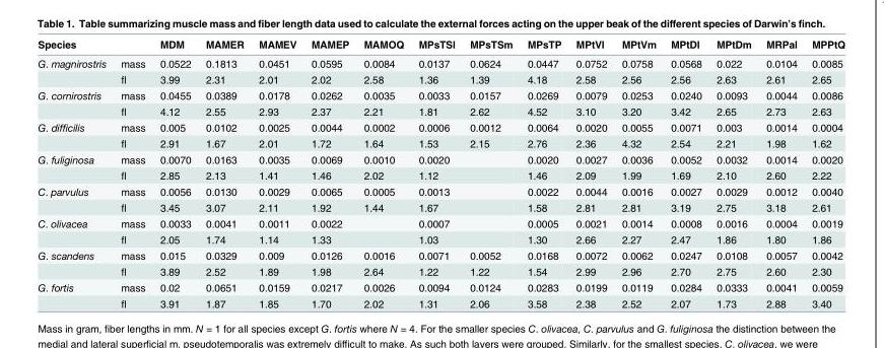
<table><thead><tr><td>Species</td><td></td><td>MDM</td><td>MAMER</td><td>MAMEV</td><td>MAMEP</td><td>MAMOQ</td><td>MPsTSl</td><td>MPsTSm</td><td>MPsTP</td><td>MPtVl</td><td>MPtVm</td><td>MPtDl</td><td>MPtDm</td><td>MRPal</td><td>MPPtQ</td></tr></thead><tbody><tr><td rowspan="2">G. magnirostris</td><td>mass</td><td>0.0522</td><td>0.1813</td><td>0.0451</td><td>0.0595</td><td>0.0084</td><td>0.0137</td><td>0.0624</td><td>0.0447</td><td>0.0752</td><td>0.0758</td><td>0.0568</td><td>0.022</td><td>0.0104</td><td>0.0085</td></tr><tr><td>fl</td><td>3.99</td><td>2.31</td><td>2.01</td><td>2.02</td><td>2.58</td><td>1.36</td><td>1.39</td><td>4.18</td><td>2.58</td><td>2.56</td><td>2.56</td><td>2.63</td><td>2.61</td><td>2.65</td></tr><tr><td rowspan="2">G. cornirostris</td><td>mass</td><td>0.0455</td><td>0.0389</td><td>0.0178</td><td>0.0262</td><td>0.0035</td><td>0.0033</td><td>0.0157</td><td>0.0269</td><td>0.0079</td><td>0.0253</td><td>0.0240</td><td>0.0093</td><td>0.0044</td><td>0.0086</td></tr><tr><td>fl</td><td>4.12</td><td>2.55</td><td>2.93</td><td>2.37</td><td>2.21</td><td>1.81</td><td>2.62</td><td>4.52</td><td>3.10</td><td>3.20</td><td>3.42</td><td>2.65</td><td>2.73</td><td>2.63</td></tr><tr><td rowspan="2">G. difficilis</td><td>mass</td><td>0.005</td><td>0.0102</td><td>0.0025</td><td>0.0044</td><td>0.0002</td><td>0.0006</td><td>0.0012</td><td>0.0064</td><td>0.0020</td><td>0.0055</td><td>0.0071</td><td>0.003</td><td>0.0014</td><td>0.0004</td></tr><tr><td>fl</td><td>2.91</td><td>1.67</td><td>2.01</td><td>1.72</td><td>1.64</td><td>1.53</td><td>2.15</td><td>2.76</td><td>2.36</td><td>4.32</td><td>2.54</td><td>2.21</td><td>1.98</td><td>1.62</td></tr><tr><td rowspan="2">G. fuliginosa</td><td>mass</td><td>0.0070</td><td>0.0163</td><td>0.0035</td><td>0.0069</td><td>0.0010</td><td>0.0020</td><td></td><td>0.0020</td><td>0.0027</td><td>0.0036</td><td>0.0052</td><td>0.0032</td><td>0.0014</td><td>0.0020</td></tr><tr><td>fl</td><td>2.85</td><td>2.13</td><td>1.41</td><td>1.46</td><td>2.02</td><td>1.12</td><td></td><td>1.46</td><td>2.09</td><td>1.99</td><td>1.69</td><td>2.10</td><td>2.60</td><td>2.22</td></tr><tr><td rowspan="2">C. parvulus</td><td>mass</td><td>0.0056</td><td>0.0130</td><td>0.0029</td><td>0.0065</td><td>0.0005</td><td>0.0013</td><td></td><td>0.0022</td><td>0.0044</td><td>0.0016</td><td>0.0027</td><td>0.0029</td><td>0.0012</td><td>0.0040</td></tr><tr><td>fl</td><td>3.45</td><td>3.07</td><td>2.11</td><td>1.92</td><td>1.44</td><td>1.67</td><td></td><td>1.58</td><td>2.81</td><td>2.81</td><td>3.19</td><td>2.75</td><td>3.18</td><td>2.61</td></tr><tr><td rowspan="2">C. olivacea</td><td>mass</td><td>0.0033</td><td>0.0041</td><td>0.0011</td><td>0.0022</td><td></td><td>0.0007</td><td></td><td>0.0005</td><td>0.0021</td><td>0.0014</td><td>0.0008</td><td>0.0016</td><td>0.0004</td><td>0.0019</td></tr><tr><td>fl</td><td>2.05</td><td>1.74</td><td>1.14</td><td>1.33</td><td></td><td>1.03</td><td></td><td>1.30</td><td>2.66</td><td>2.27</td><td>2.47</td><td>1.86</td><td>1.80</td><td>1.86</td></tr><tr><td rowspan="2">G. scandens</td><td>mass</td><td>0.015</td><td>0.0329</td><td>0.009</td><td>0.0126</td><td>0.0016</td><td>0.0071</td><td>0.0052</td><td>0.0168</td><td>0.0072</td><td>0.0062</td><td>0.0247</td><td>0.0108</td><td>0.0057</td><td>0.0042</td></tr><tr><td>fl</td><td>3.89</td><td>2.52</td><td>1.89</td><td>1.98</td><td>2.64</td><td>1.22</td><td>1.22</td><td>1.54</td><td>2.99</td><td>2.96</td><td>2.70</td><td>2.75</td><td>2.60</td><td>2.30</td></tr><tr><td rowspan="2">G. fortis</td><td>mass</td><td>0.02</td><td>0.0651</td><td>0.0159</td><td>0.0217</td><td>0.0026</td><td>0.0094</td><td>0.0124</td><td>0.0283</td><td>0.0199</td><td>0.0119</td><td>0.0284</td><td>0.0333</td><td>0.0041</td><td>0.0059</td></tr><tr><td>fl</td><td>3.91</td><td>1.87</td><td>1.85</td><td>1.70</td><td>2.02</td><td>1.31</td><td>2.06</td><td>3.58</td><td>2.38</td><td>2.52</td><td>2.07</td><td>1.73</td><td>2.88</td><td>3.40</td></tr></tbody></table>